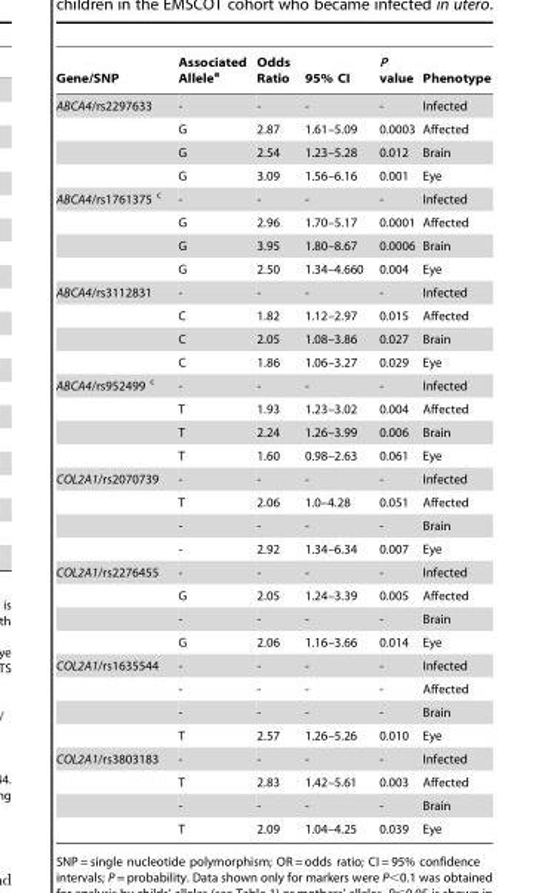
<table><thead><tr><td>Gene/SNP</td><td>Associated Allele<sup>a</sup></td><td>Odds Ratio</td><td>95% CI</td><td>P value</td><td>Phenotype</td></tr></thead><tbody><tr><td rowspan="4">ABCA4/rs2297633</td><td>-</td><td>-</td><td>-</td><td>-</td><td>Infected</td></tr><tr><td>G</td><td>2.87</td><td>1.61–5.09</td><td>0.0003</td><td>Affected</td></tr><tr><td>G</td><td>2.54</td><td>1.23–5.28</td><td>0.012</td><td>Brain</td></tr><tr><td>G</td><td>3.09</td><td>1.56–6.16</td><td>0.001</td><td>Eye</td></tr><tr><td rowspan="4">ABCA4/rs1761375 c</td><td>-</td><td>-</td><td>-</td><td>-</td><td>Infected</td></tr><tr><td>G</td><td>2.96</td><td>1.70–5.17</td><td>0.0001</td><td>Affected</td></tr><tr><td>G</td><td>3.95</td><td>1.80–8.67</td><td>0.0006</td><td>Brain</td></tr><tr><td>G</td><td>2.50</td><td>1.34–4.660</td><td>0.004</td><td>Eye</td></tr><tr><td rowspan="4">ABCA4/rs3112831</td><td>-</td><td>-</td><td>-</td><td>-</td><td>Infected</td></tr><tr><td>C</td><td>1.82</td><td>1.12–2.97</td><td>0.015</td><td>Affected</td></tr><tr><td>C</td><td>2.05</td><td>1.08–3.86</td><td>0.027</td><td>Brain</td></tr><tr><td>C</td><td>1.86</td><td>1.06–3.27</td><td>0.029</td><td>Eye</td></tr><tr><td rowspan="4">ABCA4/rs952499 c</td><td>-</td><td>-</td><td>-</td><td>-</td><td>Infected</td></tr><tr><td>T</td><td>1.93</td><td>1.23–3.02</td><td>0.004</td><td>Affected</td></tr><tr><td>T</td><td>2.24</td><td>1.26–3.99</td><td>0.006</td><td>Brain</td></tr><tr><td>T</td><td>1.60</td><td>0.98–2.63</td><td>0.061</td><td>Eye</td></tr><tr><td rowspan="4">COL2A1/rs2070739</td><td>-</td><td>-</td><td>-</td><td>-</td><td>Infected</td></tr><tr><td>T</td><td>2.06</td><td>1.0–4.28</td><td>0.051</td><td>Affected</td></tr><tr><td>-</td><td>-</td><td>-</td><td>-</td><td>Brain</td></tr><tr><td>-</td><td>2.92</td><td>1.34–6.34</td><td>0.007</td><td>Eye</td></tr><tr><td rowspan="4">COL2A1/rs2276455</td><td>-</td><td>-</td><td>-</td><td>-</td><td>Infected</td></tr><tr><td>G</td><td>2.05</td><td>1.24–3.39</td><td>0.005</td><td>Affected</td></tr><tr><td>-</td><td>-</td><td>-</td><td>-</td><td>Brain</td></tr><tr><td>G</td><td>2.06</td><td>1.16–3.66</td><td>0.014</td><td>Eye</td></tr><tr><td rowspan="4">COL2A1/rs1635544</td><td>-</td><td>-</td><td>-</td><td>-</td><td>Infected</td></tr><tr><td>-</td><td>-</td><td>-</td><td>-</td><td>Affected</td></tr><tr><td>-</td><td>-</td><td>-</td><td>-</td><td>Brain</td></tr><tr><td>T</td><td>2.57</td><td>1.26–5.26</td><td>0.010</td><td>Eye</td></tr><tr><td rowspan="4">COL2A1/rs3803183</td><td>-</td><td>-</td><td>-</td><td>-</td><td>Infected</td></tr><tr><td>T</td><td>2.83</td><td>1.42–5.61</td><td>0.003</td><td>Affected</td></tr><tr><td>-</td><td>-</td><td>-</td><td>-</td><td>Brain</td></tr><tr><td>T</td><td>2.09</td><td>1.04–4.25</td><td>0.039</td><td>Eye</td></tr></tbody></table>